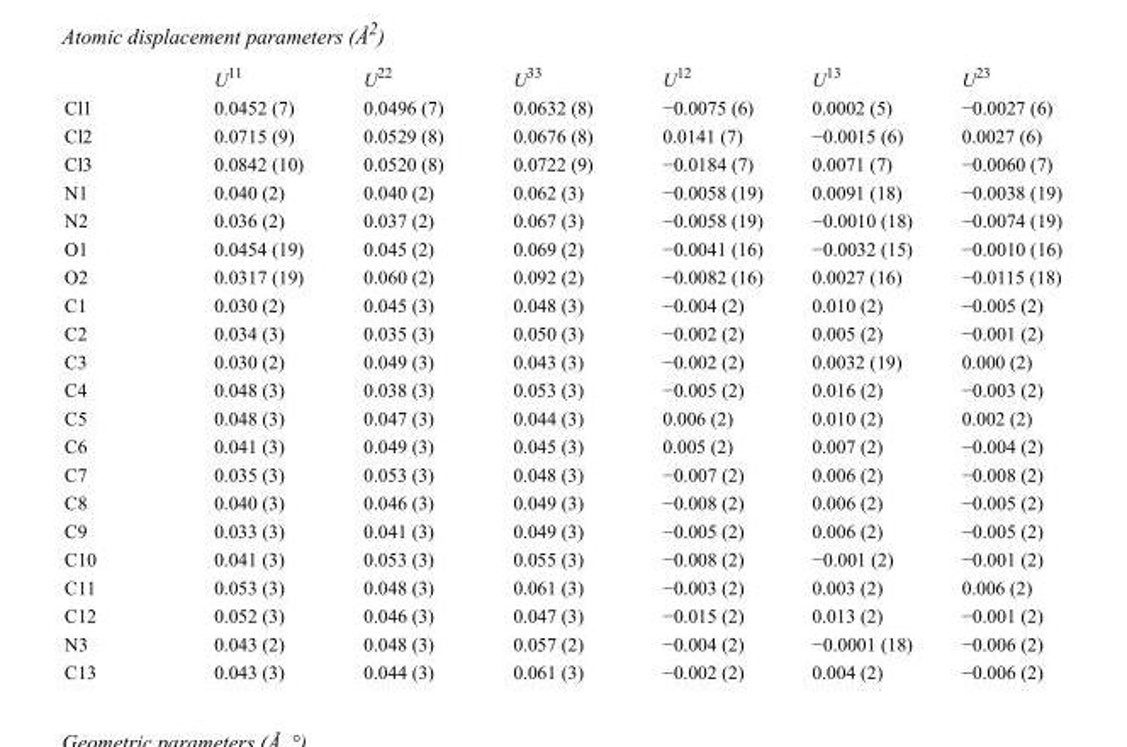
<table><thead><tr><td></td><td>U<sup>11</sup></td><td>U<sup>22</sup></td><td>U<sup>33</sup></td><td>U<sup>12</sup></td><td>U<sup>13</sup></td><td>U<sup>23</sup></td></tr></thead><tbody><tr><td>Cl1</td><td>0.0452 (7)</td><td>0.0496 (7)</td><td>0.0632 (8)</td><td>−0.0075 (6)</td><td>0.0002 (5)</td><td>−0.0027 (6)</td></tr><tr><td>Cl2</td><td>0.0715 (9)</td><td>0.0529 (8)</td><td>0.0676 (8)</td><td>0.0141 (7)</td><td>−0.0015 (6)</td><td>0.0027 (6)</td></tr><tr><td>Cl3</td><td>0.0842 (10)</td><td>0.0520 (8)</td><td>0.0722 (9)</td><td>−0.0184 (7)</td><td>0.0071 (7)</td><td>−0.0060 (7)</td></tr><tr><td>N1</td><td>0.040 (2)</td><td>0.040 (2)</td><td>0.062 (3)</td><td>−0.0058 (19)</td><td>0.0091 (18)</td><td>−0.0038 (19)</td></tr><tr><td>N2</td><td>0.036 (2)</td><td>0.037 (2)</td><td>0.067 (3)</td><td>−0.0058 (19)</td><td>−0.0010 (18)</td><td>−0.0074 (19)</td></tr><tr><td>O1</td><td>0.0454 (19)</td><td>0.045 (2)</td><td>0.069 (2)</td><td>−0.0041 (16)</td><td>−0.0032 (15)</td><td>−0.0010 (16)</td></tr><tr><td>O2</td><td>0.0317 (19)</td><td>0.060 (2)</td><td>0.092 (2)</td><td>−0.0082 (16)</td><td>0.0027 (16)</td><td>−0.0115 (18)</td></tr><tr><td>C1</td><td>0.030 (2)</td><td>0.045 (3)</td><td>0.048 (3)</td><td>−0.004 (2)</td><td>0.010 (2)</td><td>−0.005 (2)</td></tr><tr><td>C2</td><td>0.034 (3)</td><td>0.035 (3)</td><td>0.050 (3)</td><td>−0.002 (2)</td><td>0.005 (2)</td><td>−0.001 (2)</td></tr><tr><td>C3</td><td>0.030 (2)</td><td>0.049 (3)</td><td>0.043 (3)</td><td>−0.002 (2)</td><td>0.0032 (19)</td><td>0.000 (2)</td></tr><tr><td>C4</td><td>0.048 (3)</td><td>0.038 (3)</td><td>0.053 (3)</td><td>−0.005 (2)</td><td>0.016 (2)</td><td>−0.003 (2)</td></tr><tr><td>C5</td><td>0.048 (3)</td><td>0.047 (3)</td><td>0.044 (3)</td><td>0.006 (2)</td><td>0.010 (2)</td><td>0.002 (2)</td></tr><tr><td>C6</td><td>0.041 (3)</td><td>0.049 (3)</td><td>0.045 (3)</td><td>0.005 (2)</td><td>0.007 (2)</td><td>−0.004 (2)</td></tr><tr><td>C7</td><td>0.035 (3)</td><td>0.053 (3)</td><td>0.048 (3)</td><td>−0.007 (2)</td><td>0.006 (2)</td><td>−0.008 (2)</td></tr><tr><td>C8</td><td>0.040 (3)</td><td>0.046 (3)</td><td>0.049 (3)</td><td>−0.008 (2)</td><td>0.006 (2)</td><td>−0.005 (2)</td></tr><tr><td>C9</td><td>0.033 (3)</td><td>0.041 (3)</td><td>0.049 (3)</td><td>−0.005 (2)</td><td>0.006 (2)</td><td>−0.005 (2)</td></tr><tr><td>C10</td><td>0.041 (3)</td><td>0.053 (3)</td><td>0.055 (3)</td><td>−0.008 (2)</td><td>−0.001 (2)</td><td>−0.001 (2)</td></tr><tr><td>C11</td><td>0.053 (3)</td><td>0.048 (3)</td><td>0.061 (3)</td><td>−0.003 (2)</td><td>0.003 (2)</td><td>0.006 (2)</td></tr><tr><td>C12</td><td>0.052 (3)</td><td>0.046 (3)</td><td>0.047 (3)</td><td>−0.015 (2)</td><td>0.013 (2)</td><td>−0.001 (2)</td></tr><tr><td>N3</td><td>0.043 (2)</td><td>0.048 (3)</td><td>0.057 (2)</td><td>−0.004 (2)</td><td>−0.0001 (18)</td><td>−0.006 (2)</td></tr><tr><td>C13</td><td>0.043 (3)</td><td>0.044 (3)</td><td>0.061 (3)</td><td>−0.002 (2)</td><td>0.004 (2)</td><td>−0.006 (2)</td></tr></tbody></table>